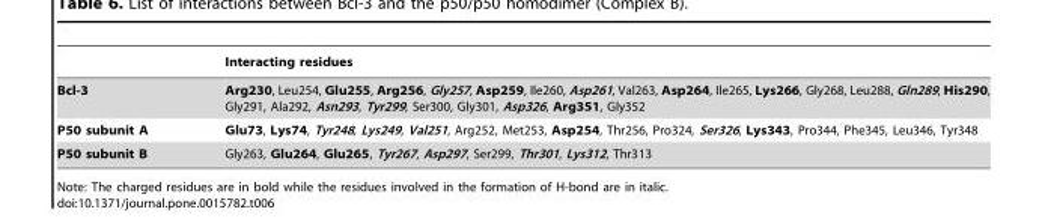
<table><thead><tr><td></td><td>Interacting residues</td></tr></thead><tbody><tr><td>Bcl-3</td><td>Arg230, Leu254, Glu255, Arg256, Gly257, Asp259, Ile260, Asp261, Val263, Asp264, Ile265, Lys266, Gly268, Leu288, Gln289, His290, Gly291, Ala292, Asn293, Tyr299, Ser300, Gly301, Asp326, Arg351, Gly352</td></tr><tr><td>P50 subunit A</td><td>Glu73, Lys74, Tyr248, Lys249, Val251, Arg252, Met253, Asp254, Thr256, Pro324, Ser326, Lys343, Pro344, Phe345, Leu346, Tyr348</td></tr><tr><td>P50 subunit B</td><td>Gly263, Glu264, Glu265, Tyr267, Asp297, Ser299, Thr301, Lys312, Thr313</td></tr></tbody></table>